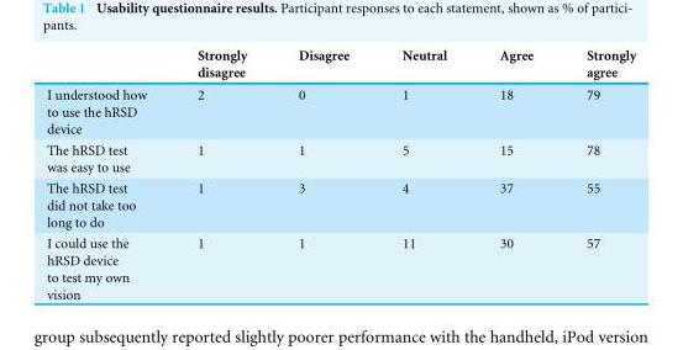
<table><thead><tr><td></td><td>Strongly disagree</td><td>Disagree</td><td>Neutral</td><td>Agree</td><td>Strongly agree</td></tr></thead><tbody><tr><td>I understood how to use the hRSD device</td><td>2</td><td>0</td><td>1</td><td>18</td><td>79</td></tr><tr><td>The hRSD test was easy to use</td><td>1</td><td>1</td><td>5</td><td>15</td><td>78</td></tr><tr><td>The hRSD test did not take too long to do</td><td>1</td><td>3</td><td>4</td><td>37</td><td>55</td></tr><tr><td>I could use the hRSD device to test my own vision</td><td>1</td><td>1</td><td>11</td><td>30</td><td>57</td></tr></tbody></table>